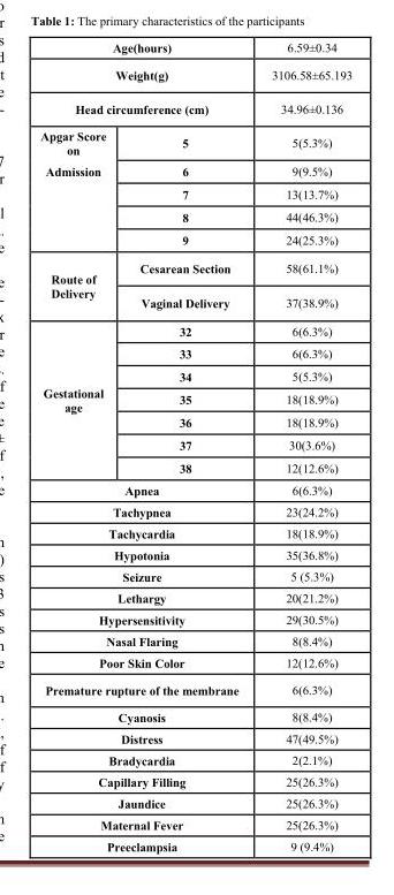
<table><tbody><tr><td colspan="2">Age(hours)</td><td>6.59±0.34</td></tr><tr><td colspan="2">Weight(g)</td><td>3106.58±65.193</td></tr><tr><td colspan="2">Head circumference (cm)</td><td>34.96±0.136</td></tr><tr><td rowspan="5">Apgar Score on Admission</td><td>5</td><td>5(5.3%)</td></tr><tr><td>6</td><td>9(9.5%)</td></tr><tr><td>7</td><td>13(13.7%)</td></tr><tr><td>8</td><td>44(46.3%)</td></tr><tr><td>9</td><td>24(25.3%)</td></tr><tr><td rowspan="2">Route of Delivery</td><td>Cesarean Section</td><td>58(61.1%)</td></tr><tr><td>Vaginal Delivery</td><td>37(38.9%)</td></tr><tr><td rowspan="7">Gestational age</td><td>32</td><td>6(6.3%)</td></tr><tr><td>33</td><td>6(6.3%)</td></tr><tr><td>34</td><td>5(5.3%)</td></tr><tr><td>35</td><td>18(18.9%)</td></tr><tr><td>36</td><td>18(18.9%)</td></tr><tr><td>37</td><td>30(3.6%)</td></tr><tr><td>38</td><td>12(12.6%)</td></tr><tr><td colspan="2">Apnea</td><td>6(6.3%)</td></tr><tr><td colspan="2">Tachypnea</td><td>23(24.2%)</td></tr><tr><td colspan="2">Tachycardia</td><td>18(18.9%)</td></tr><tr><td colspan="2">Hypotonia</td><td>35(36.8%)</td></tr><tr><td colspan="2">Seizure</td><td>5 (5.3%)</td></tr><tr><td colspan="2">Lethargy</td><td>20(21.2%)</td></tr><tr><td colspan="2">Hypersensitivity</td><td>29(30.5%)</td></tr><tr><td colspan="2">Nasal Flaring</td><td>8(8.4%)</td></tr><tr><td colspan="2">Poor Skin Color</td><td>12(12.6%)</td></tr><tr><td colspan="2">Premature rupture of the membrane</td><td>6(6.3%)</td></tr><tr><td colspan="2">Cyanosis</td><td>8(8.4%)</td></tr><tr><td colspan="2">Distress</td><td>47(49.5%)</td></tr><tr><td colspan="2">Bradycardia</td><td>2(2.1%)</td></tr><tr><td colspan="2">Capillary Filling</td><td>25(26.3%)</td></tr><tr><td colspan="2">Jaundice</td><td>25(26.3%)</td></tr><tr><td colspan="2">Maternal Fever</td><td>25(26.3%)</td></tr><tr><td colspan="2">Preeclampsia</td><td>9 (9.4%)</td></tr></tbody></table>